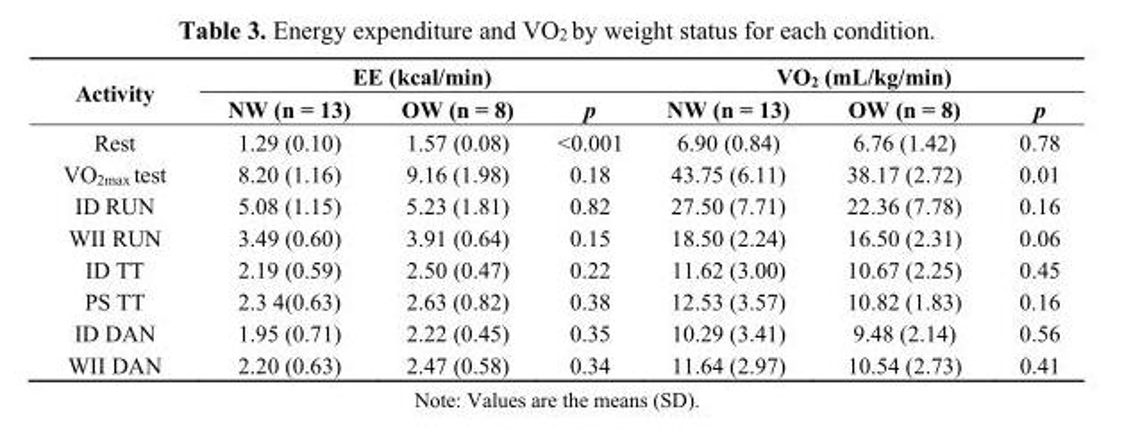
<table><thead><tr><td rowspan="2">Activity</td><td colspan="3">EE (kcal/min)</td><td colspan="3">VO<sub>2</sub> (mL/kg/min)</td></tr><tr><td>NW (n = 13)</td><td>OW (n = 8)</td><td>p</td><td>NW (n = 13)</td><td>OW (n = 8)</td><td>p</td></tr></thead><tbody><tr><td>Rest</td><td>1.29 (0.10)</td><td>1.57 (0.08)</td><td>&lt;0.001</td><td>6.90 (0.84)</td><td>6.76 (1.42)</td><td>0.78</td></tr><tr><td>VO<sub>2max</sub> test</td><td>8.20 (1.16)</td><td>9.16 (1.98)</td><td>0.18</td><td>43.75 (6.11)</td><td>38.17 (2.72)</td><td>0.01</td></tr><tr><td>ID RUN</td><td>5.08 (1.15)</td><td>5.23 (1.81)</td><td>0.82</td><td>27.50 (7.71)</td><td>22.36 (7.78)</td><td>0.16</td></tr><tr><td>WII RUN</td><td>3.49 (0.60)</td><td>3.91 (0.64)</td><td>0.15</td><td>18.50 (2.24)</td><td>16.50 (2.31)</td><td>0.06</td></tr><tr><td>ID TT</td><td>2.19 (0.59)</td><td>2.50 (0.47)</td><td>0.22</td><td>11.62 (3.00)</td><td>10.67 (2.25)</td><td>0.45</td></tr><tr><td>PS TT</td><td>2.3 4(0.63)</td><td>2.63 (0.82)</td><td>0.38</td><td>12.53 (3.57)</td><td>10.82 (1.83)</td><td>0.16</td></tr><tr><td>ID DAN</td><td>1.95 (0.71)</td><td>2.22 (0.45)</td><td>0.35</td><td>10.29 (3.41)</td><td>9.48 (2.14)</td><td>0.56</td></tr><tr><td>WII DAN</td><td>2.20 (0.63)</td><td>2.47 (0.58)</td><td>0.34</td><td>11.64 (2.97)</td><td>10.54 (2.73)</td><td>0.41</td></tr></tbody></table>